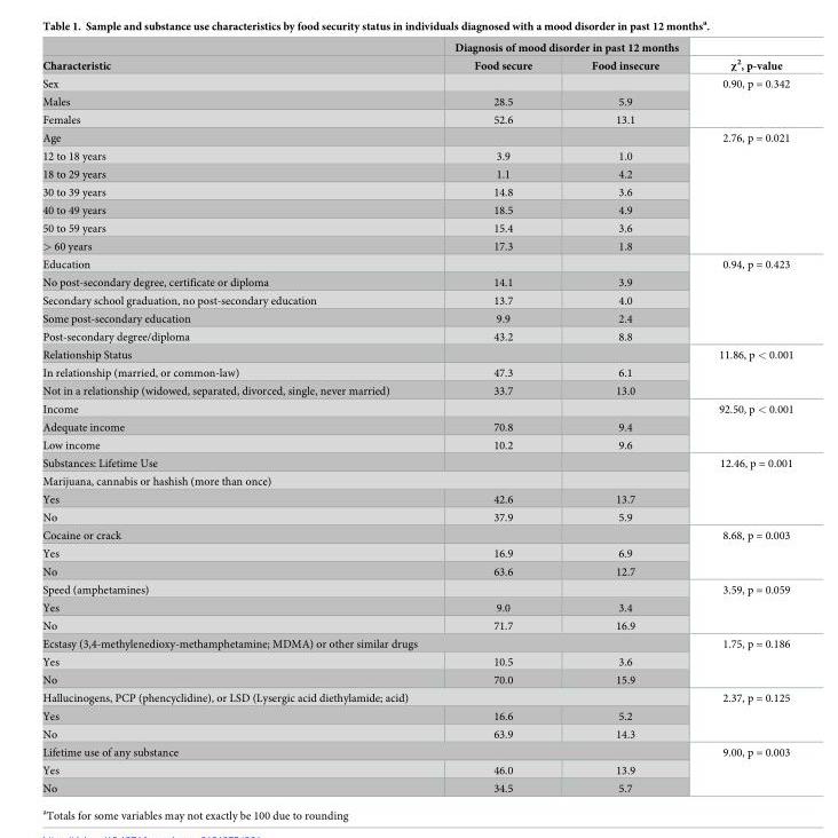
<table><thead><tr><td rowspan="2">Characteristic</td><td colspan="2">Diagnosis of mood disorder in past 12 months</td><td rowspan="2"><sup>χ2</sup>, p-value</td></tr><tr><td>Food secure</td><td>Food insecure</td></tr></thead><tbody><tr><td colspan="3">Sex</td><td rowspan="3">0.90, p = 0.342</td></tr><tr><td>Males</td><td>28.5</td><td>5.9</td></tr><tr><td>Females</td><td>52.6</td><td>13.1</td></tr><tr><td colspan="3">Age</td><td rowspan="7">2.76, p = 0.021</td></tr><tr><td>12 to 18 years</td><td>3.9</td><td>1.0</td></tr><tr><td>18 to 29 years</td><td>1.1</td><td>4.2</td></tr><tr><td>30 to 39 years</td><td>14.8</td><td>3.6</td></tr><tr><td>40 to 49 years</td><td>18.5</td><td>4.9</td></tr><tr><td>50 to 59 years</td><td>15.4</td><td>3.6</td></tr><tr><td>&gt; 60 years</td><td>17.3</td><td>1.8</td></tr><tr><td colspan="3">Education</td><td rowspan="5">0.94, p = 0.423</td></tr><tr><td>No post-secondary degree, certificate or diploma</td><td>14.1</td><td>3.9</td></tr><tr><td>Secondary school graduation, no post-secondary education</td><td>13.7</td><td>4.0</td></tr><tr><td>Some post-secondary education</td><td>9.9</td><td>2.4</td></tr><tr><td>Post-secondary degree/diploma</td><td>43.2</td><td>8.8</td></tr><tr><td colspan="3">Relationship Status</td><td rowspan="3">11.86, p &lt; 0.001</td></tr><tr><td>In relationship (married, or common-law)</td><td>47.3</td><td>6.1</td></tr><tr><td>Not in a relationship (widowed, separated, divorced, single, never married)</td><td>33.7</td><td>13.0</td></tr><tr><td colspan="3">Income</td><td rowspan="3">92.50, p &lt; 0.001</td></tr><tr><td>Adequate income</td><td>70.8</td><td>9.4</td></tr><tr><td>Low income</td><td>10.2</td><td>9.6</td></tr><tr><td colspan="3">Substances: Lifetime Use</td><td rowspan="4">12.46, p = 0.001</td></tr><tr><td colspan="3">Marijuana, cannabis or hashish (more than once)</td></tr><tr><td>Yes</td><td>42.6</td><td>13.7</td></tr><tr><td>No</td><td>37.9</td><td>5.9</td></tr><tr><td colspan="3">Cocaine or crack</td><td rowspan="3">8.68, p = 0.003</td></tr><tr><td>Yes</td><td>16.9</td><td>6.9</td></tr><tr><td>No</td><td>63.6</td><td>12.7</td></tr><tr><td colspan="3">Speed (amphetamines)</td><td rowspan="3">3.59, p = 0.059</td></tr><tr><td>Yes</td><td>9.0</td><td>3.4</td></tr><tr><td>No</td><td>71.7</td><td>16.9</td></tr><tr><td colspan="3">Ecstasy (3,4-methylenedioxy-methamphetamine; MDMA) or other similar drugs</td><td rowspan="3">1.75, p = 0.186</td></tr><tr><td>Yes</td><td>10.5</td><td>3.6</td></tr><tr><td>No</td><td>70.0</td><td>15.9</td></tr><tr><td colspan="3">Hallucinogens, PCP (phencyclidine), or LSD (Lysergic acid diethylamide; acid)</td><td rowspan="3">2.37, p = 0.125</td></tr><tr><td>Yes</td><td>16.6</td><td>5.2</td></tr><tr><td>No</td><td>63.9</td><td>14.3</td></tr><tr><td colspan="3">Lifetime use of any substance</td><td rowspan="3">9.00, p = 0.003</td></tr><tr><td>Yes</td><td>46.0</td><td>13.9</td></tr><tr><td>No</td><td>34.5</td><td>5.7</td></tr></tbody></table>